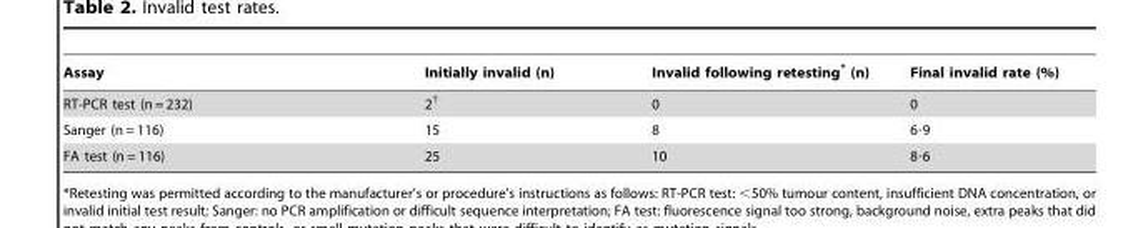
<table><thead><tr><td>Assay</td><td>Initially invalid (n)</td><td>Invalid following retesting* (n)</td><td>Final invalid rate (%)</td></tr></thead><tbody><tr><td>RT-PCR test (n = 232)</td><td>2†</td><td>0</td><td>0</td></tr><tr><td>Sanger (n = 116)</td><td>15</td><td>8</td><td>6·9</td></tr><tr><td>FA test (n = 116)</td><td>25</td><td>10</td><td>8·6</td></tr></tbody></table>